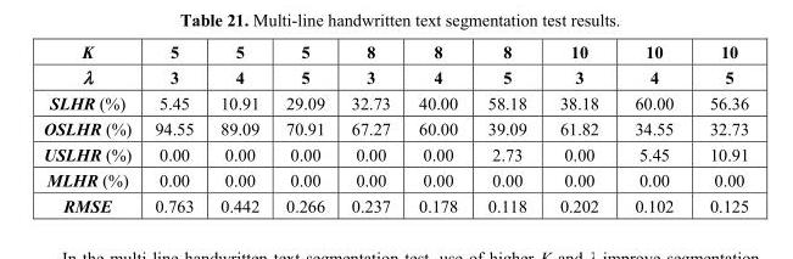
<table><thead><tr><td rowspan="2">K λ</td><td rowspan="2">5 3</td><td rowspan="2">5 4</td><td rowspan="2">5 5</td><td rowspan="2">8 3</td><td rowspan="2">8 4</td><td rowspan="2">8 5</td><td rowspan="2">10 3</td><td rowspan="2">10 4</td><td rowspan="2">10 5</td></tr><tr></tr></thead><tbody><tr><td>SLHR (%)</td><td>5.45</td><td>10.91</td><td>29.09</td><td>32.73</td><td>40.00</td><td>58.18</td><td>38.18</td><td>60.00</td><td>56.36</td></tr><tr><td>OSLHR (%)</td><td>94.55</td><td>89.09</td><td>70.91</td><td>67.27</td><td>60.00</td><td>39.09</td><td>61.82</td><td>34.55</td><td>32.73</td></tr><tr><td>USLHR (%)</td><td>0.00</td><td>0.00</td><td>0.00</td><td>0.00</td><td>0.00</td><td>2.73</td><td>0.00</td><td>5.45</td><td>10.91</td></tr><tr><td>MLHR (%)</td><td>0.00</td><td>0.00</td><td>0.00</td><td>0.00</td><td>0.00</td><td>0.00</td><td>0.00</td><td>0.00</td><td>0.00</td></tr><tr><td>RMSE</td><td>0.763</td><td>0.442</td><td>0.266</td><td>0.237</td><td>0.178</td><td>0.118</td><td>0.202</td><td>0.102</td><td>0.125</td></tr></tbody></table>